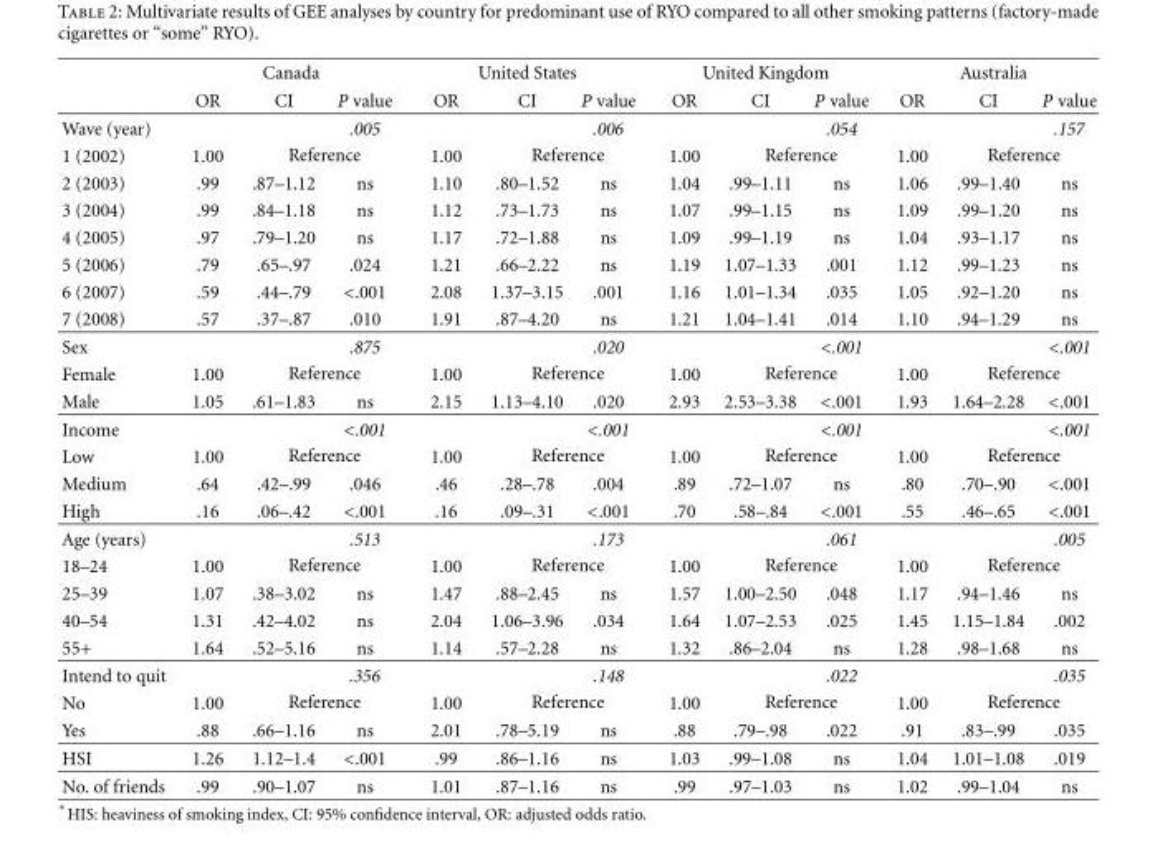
<table><thead><tr><td rowspan="2"></td><td colspan="3">Canada</td><td colspan="3">United States</td><td colspan="3">United Kingdom</td><td colspan="3">Australia</td></tr><tr><td>OR</td><td>CI</td><td>P value</td><td>OR</td><td>CI</td><td>P value</td><td>OR</td><td>CI</td><td>P value</td><td>OR</td><td>CI</td><td>P value</td></tr></thead><tbody><tr><td>Wave (year)</td><td></td><td></td><td>.005</td><td></td><td></td><td>.006</td><td></td><td></td><td>.054</td><td></td><td></td><td>.157</td></tr><tr><td>1 (2002)</td><td>1.00</td><td colspan="2">Reference</td><td>1.00</td><td colspan="2">Reference</td><td>1.00</td><td colspan="2">Reference</td><td>1.00</td><td colspan="2">Reference</td></tr><tr><td>2 (2003)</td><td>.99</td><td>.87–1.12</td><td>ns</td><td>1.10</td><td>.80–1.52</td><td>ns</td><td>1.04</td><td>.99–1.11</td><td>ns</td><td>1.06</td><td>.99–1.40</td><td>ns</td></tr><tr><td>3 (2004)</td><td>.99</td><td>.84–1.18</td><td>ns</td><td>1.12</td><td>.73–1.73</td><td>ns</td><td>1.07</td><td>.99–1.15</td><td>ns</td><td>1.09</td><td>.99–1.20</td><td>ns</td></tr><tr><td>4 (2005)</td><td>.97</td><td>.79–1.20</td><td>ns</td><td>1.17</td><td>.72–1.88</td><td>ns</td><td>1.09</td><td>.99–1.19</td><td>ns</td><td>1.04</td><td>.93–1.17</td><td>ns</td></tr><tr><td>5 (2006)</td><td>.79</td><td>.65–.97</td><td>.024</td><td>1.21</td><td>.66–2.22</td><td>ns</td><td>1.19</td><td>1.07–1.33</td><td>.001</td><td>1.12</td><td>.99–1.23</td><td>ns</td></tr><tr><td>6 (2007)</td><td>.59</td><td>.44–.79</td><td>&lt;.001</td><td>2.08</td><td>1.37–3.15</td><td>.001</td><td>1.16</td><td>1.01–1.34</td><td>.035</td><td>1.05</td><td>.92–1.20</td><td>ns</td></tr><tr><td>7 (2008)</td><td>.57</td><td>.37–.87</td><td>.010</td><td>1.91</td><td>.87–4.20</td><td>ns</td><td>1.21</td><td>1.04–1.41</td><td>.014</td><td>1.10</td><td>.94–1.29</td><td>ns</td></tr><tr><td>Sex</td><td></td><td></td><td>.875</td><td></td><td></td><td>.020</td><td></td><td></td><td>&lt;.001</td><td></td><td></td><td>&lt;.001</td></tr><tr><td>Female</td><td>1.00</td><td colspan="2">Reference</td><td>1.00</td><td colspan="2">Reference</td><td>1.00</td><td colspan="2">Reference</td><td>1.00</td><td colspan="2">Reference</td></tr><tr><td>Male</td><td>1.05</td><td>.61–1.83</td><td>ns</td><td>2.15</td><td>1.13–4.10</td><td>.020</td><td>2.93</td><td>2.53–3.38</td><td>&lt;.001</td><td>1.93</td><td>1.64–2.28</td><td>&lt;.001</td></tr><tr><td>Income</td><td></td><td></td><td>&lt;.001</td><td></td><td></td><td>&lt;.001</td><td></td><td></td><td>&lt;.001</td><td></td><td></td><td>&lt;.001</td></tr><tr><td>Low</td><td>1.00</td><td colspan="2">Reference</td><td>1.00</td><td colspan="2">Reference</td><td>1.00</td><td colspan="2">Reference</td><td>1.00</td><td colspan="2">Reference</td></tr><tr><td>Medium</td><td>.64</td><td>.42–.99</td><td>.046</td><td>.46</td><td>.28–.78</td><td>.004</td><td>.89</td><td>.72–1.07</td><td>ns</td><td>.80</td><td>.70–.90</td><td>&lt;.001</td></tr><tr><td>High</td><td>.16</td><td>.06–.42</td><td>&lt;.001</td><td>.16</td><td>.09–.31</td><td>&lt;.001</td><td>.70</td><td>.58–.84</td><td>&lt;.001</td><td>.55</td><td>.46–.65</td><td>&lt;.001</td></tr><tr><td>Age (years)</td><td></td><td></td><td>.513</td><td></td><td></td><td>.173</td><td></td><td></td><td>.061</td><td></td><td></td><td>.005</td></tr><tr><td>18–24</td><td>1.00</td><td colspan="2">Reference</td><td>1.00</td><td colspan="2">Reference</td><td>1.00</td><td colspan="2">Reference</td><td>1.00</td><td colspan="2">Reference</td></tr><tr><td>25–39</td><td>1.07</td><td>.38–3.02</td><td>ns</td><td>1.47</td><td>.88–2.45</td><td>ns</td><td>1.57</td><td>1.00–2.50</td><td>.048</td><td>1.17</td><td>.94–1.46</td><td>ns</td></tr><tr><td>40–54</td><td>1.31</td><td>.42–4.02</td><td>ns</td><td>2.04</td><td>1.06–3.96</td><td>.034</td><td>1.64</td><td>1.07–2.53</td><td>.025</td><td>1.45</td><td>1.15–1.84</td><td>.002</td></tr><tr><td>55+</td><td>1.64</td><td>.52–5.16</td><td>ns</td><td>1.14</td><td>.57–2.28</td><td>ns</td><td>1.32</td><td>.86–2.04</td><td>ns</td><td>1.28</td><td>.98–1.68</td><td>ns</td></tr><tr><td>Intend to quit</td><td></td><td></td><td>.356</td><td></td><td></td><td>.148</td><td></td><td></td><td>.022</td><td></td><td></td><td>.035</td></tr><tr><td>No</td><td>1.00</td><td colspan="2">Reference</td><td>1.00</td><td colspan="2">Reference</td><td>1.00</td><td colspan="2">Reference</td><td>1.00</td><td colspan="2">Reference</td></tr><tr><td>Yes</td><td>.88</td><td>.66–1.16</td><td>ns</td><td>2.01</td><td>.78–5.19</td><td>ns</td><td>.88</td><td>.79–.98</td><td>.022</td><td>.91</td><td>.83–.99</td><td>.035</td></tr><tr><td>HSI</td><td>1.26</td><td>1.12–1.4</td><td>&lt;.001</td><td>.99</td><td>.86–1.16</td><td>ns</td><td>1.03</td><td>.99–1.08</td><td>ns</td><td>1.04</td><td>1.01–1.08</td><td>.019</td></tr><tr><td>No. of friends</td><td>.99</td><td>.90–1.07</td><td>ns</td><td>1.01</td><td>.87–1.16</td><td>ns</td><td>.99</td><td>.97–1.03</td><td>ns</td><td>1.02</td><td>.99–1.04</td><td>ns</td></tr></tbody></table>